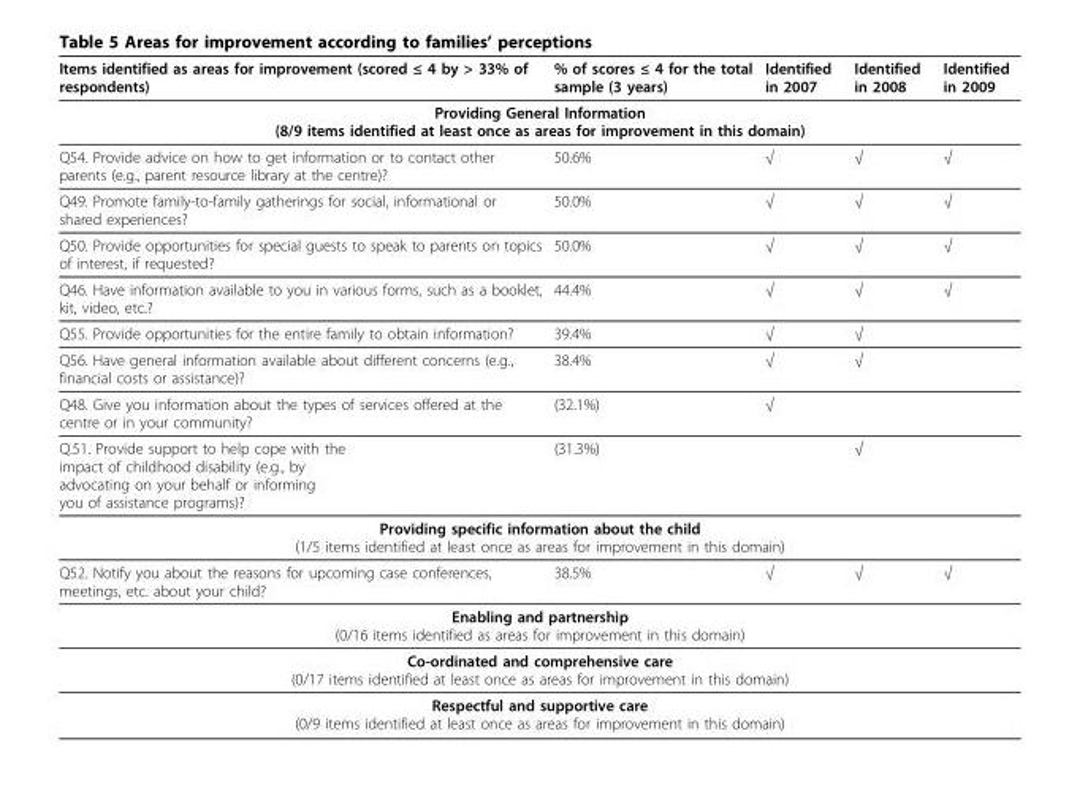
<table><thead><tr><td>Items identified as areas for improvement (scored ≤ 4 by &gt; 33% of respondents)</td><td>% of scores ≤ 4 for the total sample (3 years)</td><td>Identified in 2007</td><td>Identified in 2008</td><td>Identified in 2009</td></tr></thead><tbody><tr><td colspan="5">Providing General Information (8/9 items identified at least once as areas for improvement in this domain)</td></tr><tr><td>Q54. Provide advice on how to get information or to contact other parents (e.g., parent resource library at the centre)?</td><td>50.6%</td><td>√</td><td>√</td><td>√</td></tr><tr><td>Q49. Promote family-to-family gatherings for social, informational or shared experiences?</td><td>50.0%</td><td>√</td><td>√</td><td>√</td></tr><tr><td>Q50. Provide opportunities for special guests to speak to parents on topics of interest, if requested?</td><td>50.0%</td><td>√</td><td>√</td><td>√</td></tr><tr><td>Q46. Have information available to you in various forms, such as a booklet, kit, video, etc.?</td><td>44.4%</td><td>√</td><td>√</td><td>√</td></tr><tr><td>Q55. Provide opportunities for the entire family to obtain information?</td><td>39.4%</td><td>√</td><td>√</td><td></td></tr><tr><td>Q56. Have general information available about different concerns (e.g., financial costs or assistance)?</td><td>38.4%</td><td>√</td><td>√</td><td></td></tr><tr><td>Q48. Give you information about the types of services offered at the centre or in your community?</td><td>(32.1%)</td><td>√</td><td></td><td></td></tr><tr><td>Q.51. Provide support to help cope with the impact of childhood disability (e.g., by advocating on your behalf or informing you of assistance programs)?</td><td>(31.3%)</td><td></td><td>√</td><td></td></tr><tr><td colspan="5">Providing specific information about the child (1/5 items identified at least once as areas for improvement in this domain)</td></tr><tr><td>Q52. Notify you about the reasons for upcoming case conferences, meetings, etc. about your child?</td><td>38.5%</td><td>√</td><td>√</td><td>√</td></tr><tr><td colspan="5">Enabling and partnership (0/16 items identified as areas for improvement in this domain)</td></tr><tr><td colspan="5">Co-ordinated and comprehensive care (0/17 items identified at least once as areas for improvement in this domain)</td></tr><tr><td colspan="5">Respectful and supportive care (0/9 items identified at least once as areas for improvement in this domain)</td></tr></tbody></table>